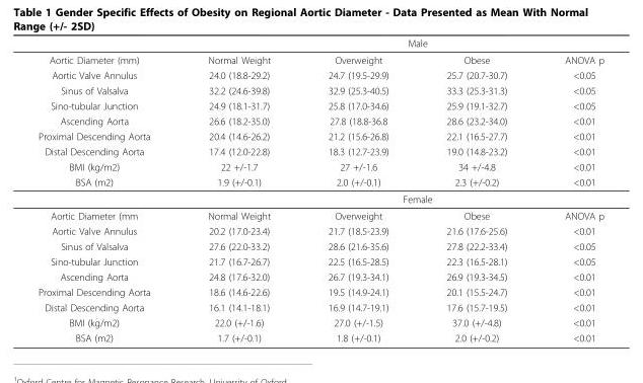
<table><thead><tr><td rowspan="2">Aortic Diameter (mm)</td><td rowspan="2">Normal Weight</td><td colspan="2">Male</td><td rowspan="2">ANOVA p</td></tr><tr><td>Overweight</td><td>Obese</td></tr></thead><tbody><tr><td>Aortic Valve Annulus</td><td>24.0 (18.8-29.2)</td><td>24.7 (19.5-29.9)</td><td>25.7 (20.7-30.7)</td><td>&lt;0.05</td></tr><tr><td>Sinus of Valsalva</td><td>32.2 (24.6-39.8)</td><td>32.9 (25.3-40.5)</td><td>33.3 (25.3-31.3)</td><td>&lt;0.05</td></tr><tr><td>Sino-tubular Junction</td><td>24.9 (18.1-31.7)</td><td>25.8 (17.0-34.6)</td><td>25.9 (19.1-32.7)</td><td>&lt;0.05</td></tr><tr><td>Ascending Aorta</td><td>26.6 (18.2-35.0)</td><td>27.8 (18.8-36.8</td><td>28.6 (23.2-34.0)</td><td>&lt;0.01</td></tr><tr><td>Proximal Descending Aorta</td><td>20.4 (14.6-26.2)</td><td>21.2 (15.6-26.8)</td><td>22.1 (16.5-27.7)</td><td>&lt;0.01</td></tr><tr><td>Distal Descending Aorta</td><td>17.4 (12.0-22.8)</td><td>18.3 (12.7-23.9)</td><td>19.0 (14.8-23.2)</td><td>&lt;0.01</td></tr><tr><td>BMI (kg/m2)</td><td>22 +/-1.7</td><td>27 +/-1.6</td><td>34 +/-4.8</td><td>&lt;0.01</td></tr><tr><td rowspan="2">BSA (m2)</td><td>1.9 (+/-0.1)</td><td>2.0 (+/-0.1)</td><td>2.3 (+/-0.2)</td><td>&lt;0.01</td></tr><tr><td></td><td colspan="2">Female</td><td></td></tr><tr><td>Aortic Diameter (mm</td><td>Normal Weight</td><td>Overweight</td><td>Obese</td><td>ANOVA p</td></tr><tr><td>Aortic Valve Annulus</td><td>20.2 (17.0-23.4)</td><td>21.7 (18.5-23.9)</td><td>21.6 (17.6-25.6)</td><td>&lt;0.01</td></tr><tr><td>Sinus of Valsalva</td><td>27.6 (22.0-33.2)</td><td>28.6 (21.6-35.6)</td><td>27.8 (22.2-33.4)</td><td>&lt;0.05</td></tr><tr><td>Sino-tubular Junction</td><td>21.7 (16.7-26.7)</td><td>22.5 (16.5-28.5)</td><td>22.3 (16.5-28.1)</td><td>&lt;0.05</td></tr><tr><td>Ascending Aorta</td><td>24.8 (17.6-32.0)</td><td>26.7 (19.3-34.1)</td><td>26.9 (19.3-34.5)</td><td>&lt;0.01</td></tr><tr><td>Proximal Descending Aorta</td><td>18.6 (14.6-22.6)</td><td>19.5 (14.9-24.1)</td><td>20.1 (15.5-24.7)</td><td>&lt;0.01</td></tr><tr><td>Distal Descending Aorta</td><td>16.1 (14.1-18.1)</td><td>16.9 (14.7-19.1)</td><td>17.6 (15.7-19.5)</td><td>&lt;0.01</td></tr><tr><td>BMI (kg/m2)</td><td>22.0 (+/-1.6)</td><td>27.0 (+/-1.5)</td><td>37.0 (+/-4.8)</td><td>&lt;0.01</td></tr><tr><td>BSA (m2)</td><td>1.7 (+/-0.1)</td><td>1.8 (+/-0.1)</td><td>2.0 (+/-0.2)</td><td>&lt;0.01</td></tr></tbody></table>